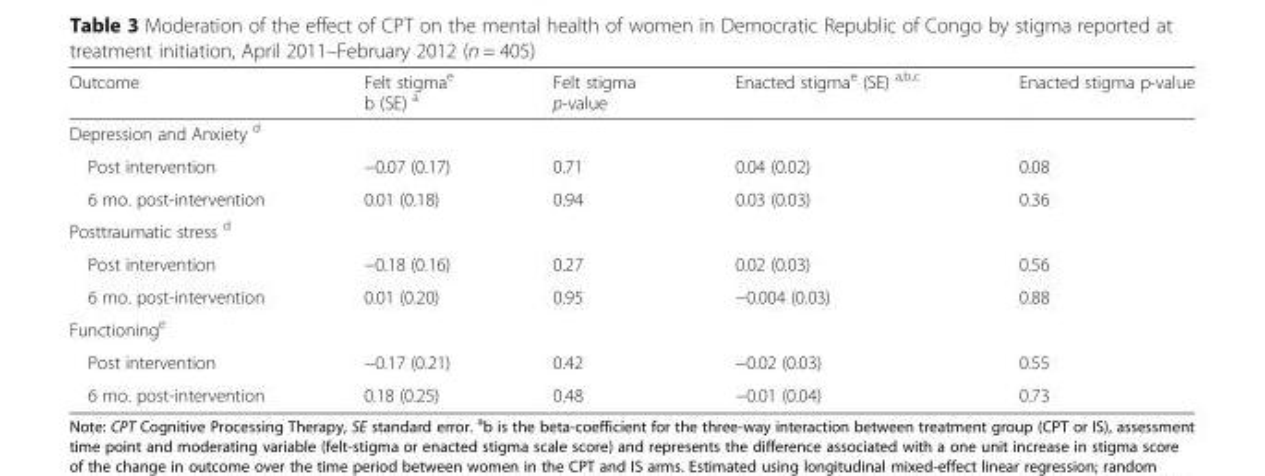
<table><thead><tr><td>Outcome</td><td>Felt stigma<sup>e</sup> b (SE) <sup>a</sup></td><td>Felt stigma p-value</td><td>Enacted stigma<sup>e</sup> (SE) <sup>a,b,c</sup></td><td>Enacted stigma p-value</td></tr></thead><tbody><tr><td colspan="5">Depression and Anxiety <sup>d</sup></td></tr><tr><td>Post intervention</td><td>−0.07 (0.17)</td><td>0.71</td><td>0.04 (0.02)</td><td>0.08</td></tr><tr><td>6 mo. post-intervention</td><td>0.01 (0.18)</td><td>0.94</td><td>0.03 (0.03)</td><td>0.36</td></tr><tr><td colspan="5">Posttraumatic stress <sup>d</sup></td></tr><tr><td>Post intervention</td><td>−0.18 (0.16)</td><td>0.27</td><td>0.02 (0.03)</td><td>0.56</td></tr><tr><td>6 mo. post-intervention</td><td>0.01 (0.20)</td><td>0.95</td><td>−0.004 (0.03)</td><td>0.88</td></tr><tr><td colspan="5">Functioning<sup>e</sup></td></tr><tr><td>Post intervention</td><td>−0.17 (0.21)</td><td>0.42</td><td>−0.02 (0.03)</td><td>0.55</td></tr><tr><td>6 mo. post-intervention</td><td>0.18 (0.25)</td><td>0.48</td><td>−0.01 (0.04)</td><td>0.73</td></tr></tbody></table>